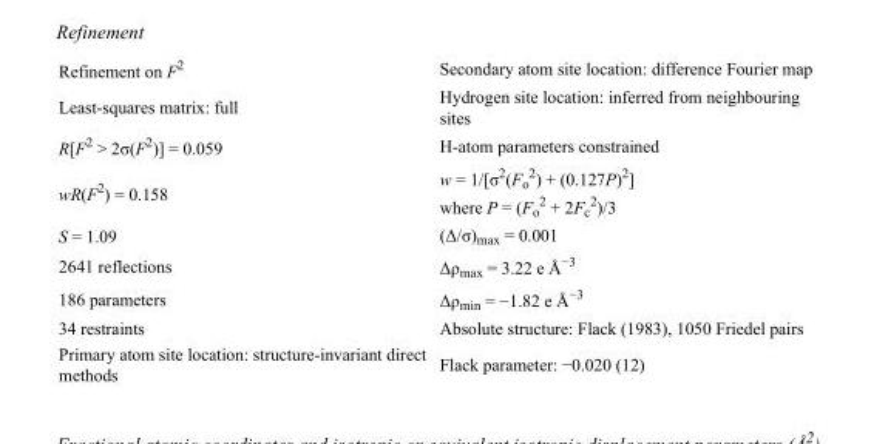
<table><tbody><tr><td>Refinement on F<sup>2</sup></td><td>Secondary atom site location: difference Fourier map</td></tr><tr><td>Least-squares matrix: full</td><td>Hydrogen site location: inferred from neighbouring sites</td></tr><tr><td>R[F<sup>2</sup> &gt; 2σ(F<sup>2</sup>)] = 0.059</td><td>H-atom parameters constrained</td></tr><tr><td>wR(F<sup>2</sup>) = 0.158</td><td>w = 1/[σ<sup>2</sup>(F<sub>o</sub> <sup>2</sup>) + (0.127P)<sup>2</sup>] where P = (F<sub>o</sub> <sup>2</sup> + 2F<sub>c</sub> <sup>2</sup>)/3</td></tr><tr><td>S = 1.09</td><td>(Δ/σ)<sub>max</sub> = 0.001</td></tr><tr><td>2641 reflections</td><td>Δρ<sub>max</sub> = 3.22 e Å<sup>−3</sup></td></tr><tr><td>186 parameters</td><td>Δρ<sub>min</sub> = −1.82 e Å<sup>−3</sup></td></tr><tr><td>34 restraints</td><td>Absolute structure: Flack (1983), 1050 Friedel pairs</td></tr><tr><td>Primary atom site location: structure-invariant direct methods</td><td>Flack parameter: −0.020 (12)</td></tr></tbody></table>